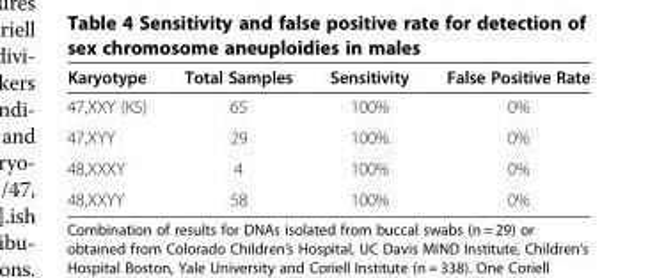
<table><thead><tr><td>Karyotype</td><td>Total Samples</td><td>Sensitivity</td><td>False Positive Rate</td></tr></thead><tbody><tr><td>47,XXY (KS)</td><td>65</td><td>100%</td><td>0%</td></tr><tr><td>47,XYY</td><td>29</td><td>100%</td><td>0%</td></tr><tr><td>48,XXXY</td><td>4</td><td>100%</td><td>0%</td></tr><tr><td>48,XXYY</td><td>58</td><td>100%</td><td>0%</td></tr></tbody></table>